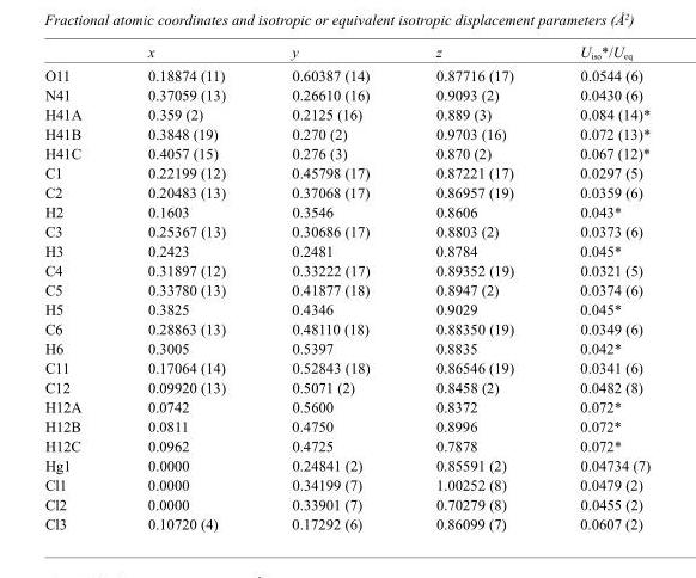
<table><thead><tr><td></td><td>x</td><td>y</td><td>z</td><td>U<sub>iso</sub>*/U<sub>eq</sub></td></tr></thead><tbody><tr><td>O11</td><td>0.18874 (11)</td><td>0.60387 (14)</td><td>0.87716 (17)</td><td>0.0544 (6)</td></tr><tr><td>N41</td><td>0.37059 (13)</td><td>0.26610 (16)</td><td>0.9093 (2)</td><td>0.0430 (6)</td></tr><tr><td>H41A</td><td>0.359 (2)</td><td>0.2125 (16)</td><td>0.889 (3)</td><td>0.084 (14)*</td></tr><tr><td>H41B</td><td>0.3848 (19)</td><td>0.270 (2)</td><td>0.9703 (16)</td><td>0.072 (13)*</td></tr><tr><td>H41C</td><td>0.4057 (15)</td><td>0.276 (3)</td><td>0.870 (2)</td><td>0.067 (12)*</td></tr><tr><td>C1</td><td>0.22199 (12)</td><td>0.45798 (17)</td><td>0.87221 (17)</td><td>0.0297 (5)</td></tr><tr><td>C2</td><td>0.20483 (13)</td><td>0.37068 (17)</td><td>0.86957 (19)</td><td>0.0359 (6)</td></tr><tr><td>H2</td><td>0.1603</td><td>0.3546</td><td>0.8606</td><td>0.043*</td></tr><tr><td>C3</td><td>0.25367 (13)</td><td>0.30686 (17)</td><td>0.8803 (2)</td><td>0.0373 (6)</td></tr><tr><td>H3</td><td>0.2423</td><td>0.2481</td><td>0.8784</td><td>0.045*</td></tr><tr><td>C4</td><td>0.31897 (12)</td><td>0.33222 (17)</td><td>0.89352 (19)</td><td>0.0321 (5)</td></tr><tr><td>C5</td><td>0.33780 (13)</td><td>0.41877 (18)</td><td>0.8947 (2)</td><td>0.0374 (6)</td></tr><tr><td>H5</td><td>0.3825</td><td>0.4346</td><td>0.9029</td><td>0.045*</td></tr><tr><td>C6</td><td>0.28863 (13)</td><td>0.48110 (18)</td><td>0.88350 (19)</td><td>0.0349 (6)</td></tr><tr><td>H6</td><td>0.3005</td><td>0.5397</td><td>0.8835</td><td>0.042*</td></tr><tr><td>C11</td><td>0.17064 (14)</td><td>0.52843 (18)</td><td>0.86546 (19)</td><td>0.0341 (6)</td></tr><tr><td>C12</td><td>0.09920 (13)</td><td>0.5071 (2)</td><td>0.8458 (2)</td><td>0.0482 (8)</td></tr><tr><td>H12A</td><td>0.0742</td><td>0.5600</td><td>0.8372</td><td>0.072*</td></tr><tr><td>H12B</td><td>0.0811</td><td>0.4750</td><td>0.8996</td><td>0.072*</td></tr><tr><td>H12C</td><td>0.0962</td><td>0.4725</td><td>0.7878</td><td>0.072*</td></tr><tr><td>Hg1</td><td>0.0000</td><td>0.24841 (2)</td><td>0.85591 (2)</td><td>0.04734 (7)</td></tr><tr><td>Cl1</td><td>0.0000</td><td>0.34199 (7)</td><td>1.00252 (8)</td><td>0.0479 (2)</td></tr><tr><td>Cl2</td><td>0.0000</td><td>0.33901 (7)</td><td>0.70279 (8)</td><td>0.0455 (2)</td></tr><tr><td>Cl3</td><td>0.10720 (4)</td><td>0.17292 (6)</td><td>0.86099 (7)</td><td>0.0607 (2)</td></tr></tbody></table>